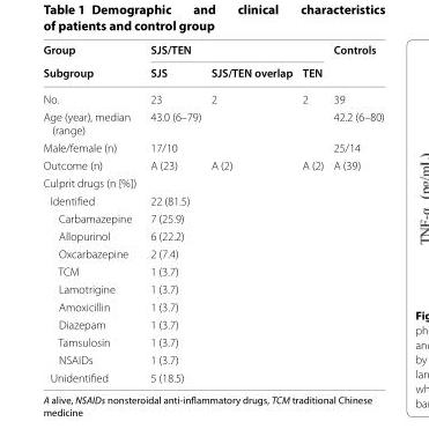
<table><thead><tr><td rowspan="2">Group Subgroup</td><td colspan="3">SJS/TEN</td><td rowspan="2">Controls</td></tr><tr><td>SJS</td><td>SJS/TEN overlap</td><td>TEN</td></tr></thead><tbody><tr><td>No.</td><td>23</td><td>2</td><td>2</td><td>39</td></tr><tr><td>Age (year), median (range)</td><td>43.0 (6–79)</td><td></td><td></td><td>42.2 (6–80)</td></tr><tr><td>Male/female (n)</td><td>17/10</td><td></td><td></td><td>25/14</td></tr><tr><td>Outcome (n)</td><td>A (23)</td><td>A (2)</td><td>A (2)</td><td>A (39)</td></tr><tr><td colspan="5">Culprit drugs (n [%])</td></tr><tr><td>Identified</td><td>22 (81.5)</td><td></td><td></td><td></td></tr><tr><td>Carbamazepine</td><td>7 (25.9)</td><td></td><td></td><td></td></tr><tr><td>Allopurinol</td><td>6 (22.2)</td><td></td><td></td><td></td></tr><tr><td>Oxcarbazepine</td><td>2 (7.4)</td><td></td><td></td><td></td></tr><tr><td>TCM</td><td>1 (3.7)</td><td></td><td></td><td></td></tr><tr><td>Lamotrigine</td><td>1 (3.7)</td><td></td><td></td><td></td></tr><tr><td>Amoxicillin</td><td>1 (3.7)</td><td></td><td></td><td></td></tr><tr><td>Diazepam</td><td>1 (3.7)</td><td></td><td></td><td></td></tr><tr><td>Tamsulosin</td><td>1 (3.7)</td><td></td><td></td><td></td></tr><tr><td>NSAIDs</td><td>1 (3.7)</td><td></td><td></td><td></td></tr><tr><td>Unidentified</td><td>5 (18.5)</td><td></td><td></td><td></td></tr></tbody></table>